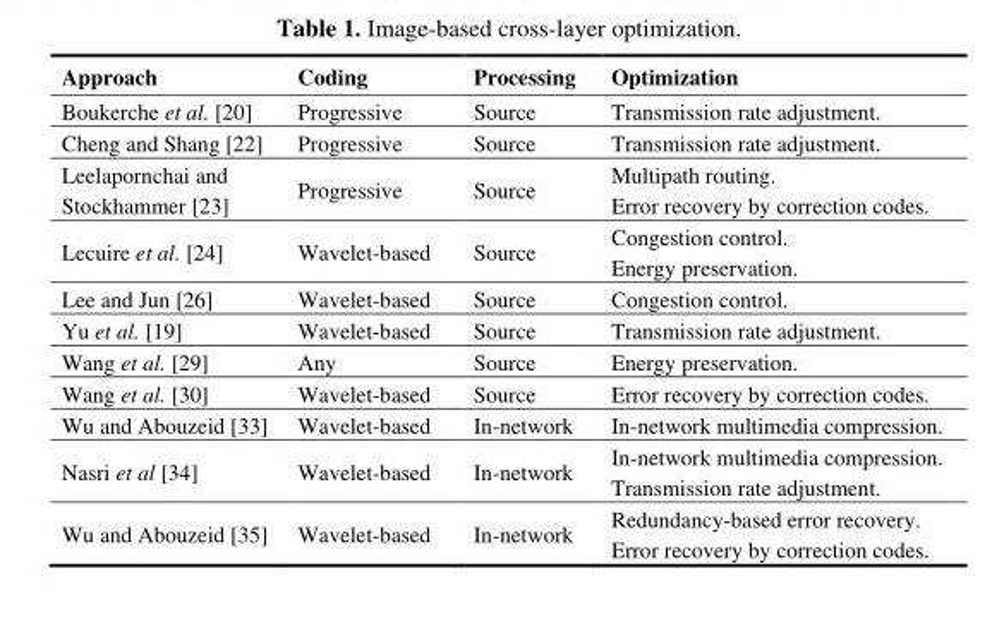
<table><thead><tr><td>Approach</td><td>Coding</td><td>Processing</td><td>Optimization</td></tr></thead><tbody><tr><td>Boukerche et al. [20]</td><td>Progressive</td><td>Source</td><td>Transmission rate adjustment.</td></tr><tr><td>Cheng and Shang [22]</td><td>Progressive</td><td>Source</td><td>Transmission rate adjustment.</td></tr><tr><td>Leelapornchai and Stockhammer [23]</td><td>Progressive</td><td>Source</td><td>Multipath routing. Error recovery by correction codes.</td></tr><tr><td>Lecuire et al. [24]</td><td>Wavelet-based</td><td>Source</td><td>Congestion control. Energy preservation.</td></tr><tr><td>Lee and Jun [26]</td><td>Wavelet-based</td><td>Source</td><td>Congestion control.</td></tr><tr><td>Yu et al. [19]</td><td>Wavelet-based</td><td>Source</td><td>Transmission rate adjustment.</td></tr><tr><td>Wang et al. [29]</td><td>Any</td><td>Source</td><td>Energy preservation.</td></tr><tr><td>Wang et al. [30]</td><td>Wavelet-based</td><td>Source</td><td>Error recovery by correction codes.</td></tr><tr><td>Wu and Abouzeid [33]</td><td>Wavelet-based</td><td>In-network</td><td>In-network multimedia compression.</td></tr><tr><td>Nasri et al [34]</td><td>Wavelet-based</td><td>In-network</td><td>In-network multimedia compression. Transmission rate adjustment.</td></tr><tr><td>Wu and Abouzeid [35]</td><td>Wavelet-based</td><td>In-network</td><td>Redundancy-based error recovery. Error recovery by correction codes.</td></tr></tbody></table>